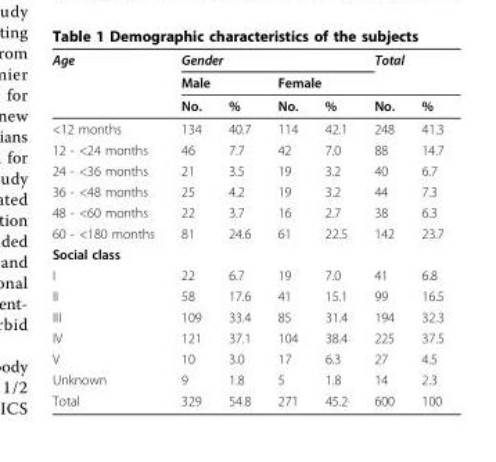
<table><thead><tr><td rowspan="3">Age</td><td colspan="4">Gender</td><td colspan="2">Total</td></tr><tr><td colspan="2">Male</td><td colspan="2">Female</td><td rowspan="2">No.</td><td rowspan="2">%</td></tr><tr><td>No.</td><td>%</td><td>No.</td><td>%</td></tr></thead><tbody><tr><td>&lt;12 months</td><td>134</td><td>40.7</td><td>114</td><td>42.1</td><td>248</td><td>41.3</td></tr><tr><td>12 - &lt;24 months</td><td>46</td><td>7.7</td><td>42</td><td>7.0</td><td>88</td><td>14.7</td></tr><tr><td>24 - &lt;36 months</td><td>21</td><td>3.5</td><td>19</td><td>3.2</td><td>40</td><td>6.7</td></tr><tr><td>36 - &lt;48 months</td><td>25</td><td>4.2</td><td>19</td><td>3.2</td><td>44</td><td>7.3</td></tr><tr><td>48 - &lt;60 months</td><td>22</td><td>3.7</td><td>16</td><td>2.7</td><td>38</td><td>6.3</td></tr><tr><td>60 - &lt;180 months</td><td>81</td><td>24.6</td><td>61</td><td>22.5</td><td>142</td><td>23.7</td></tr><tr><td colspan="7">Social class</td></tr><tr><td>I</td><td>22</td><td>6.7</td><td>19</td><td>7.0</td><td>41</td><td>6.8</td></tr><tr><td>II</td><td>58</td><td>17.6</td><td>41</td><td>15.1</td><td>99</td><td>16.5</td></tr><tr><td>III</td><td>109</td><td>33.4</td><td>85</td><td>31.4</td><td>194</td><td>32.3</td></tr><tr><td>IV</td><td>121</td><td>37.1</td><td>104</td><td>38.4</td><td>225</td><td>37.5</td></tr><tr><td>V</td><td>10</td><td>3.0</td><td>17</td><td>6.3</td><td>27</td><td>4.5</td></tr><tr><td>Unknown</td><td>9</td><td>1.8</td><td>5</td><td>1.8</td><td>14</td><td>2.3</td></tr><tr><td>Total</td><td>329</td><td>54.8</td><td>271</td><td>45.2</td><td>600</td><td>100</td></tr></tbody></table>